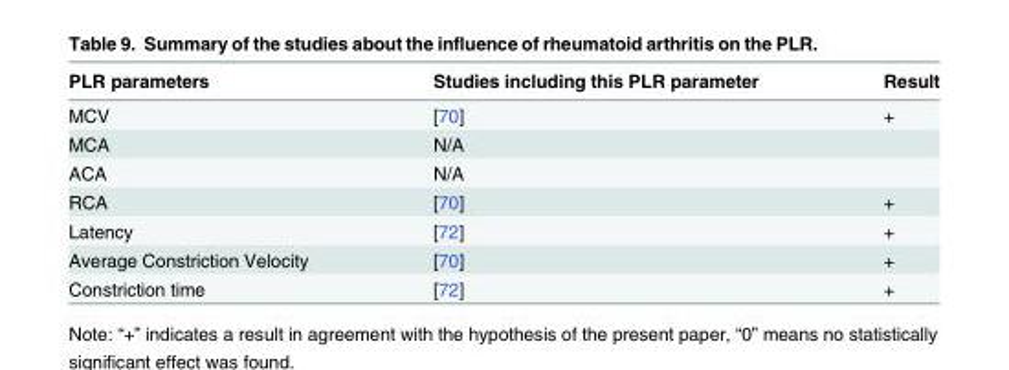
<table><thead><tr><td>PLR parameters</td><td>Studies including this PLR parameter</td><td>Result</td></tr></thead><tbody><tr><td>MCV</td><td>[70]</td><td>+</td></tr><tr><td>MCA</td><td>N/A</td><td></td></tr><tr><td>ACA</td><td>N/A</td><td></td></tr><tr><td>RCA</td><td>[70]</td><td>+</td></tr><tr><td>Latency</td><td>[72]</td><td>+</td></tr><tr><td>Average Constriction Velocity</td><td>[70]</td><td>+</td></tr><tr><td>Constriction time</td><td>[72]</td><td>+</td></tr></tbody></table>